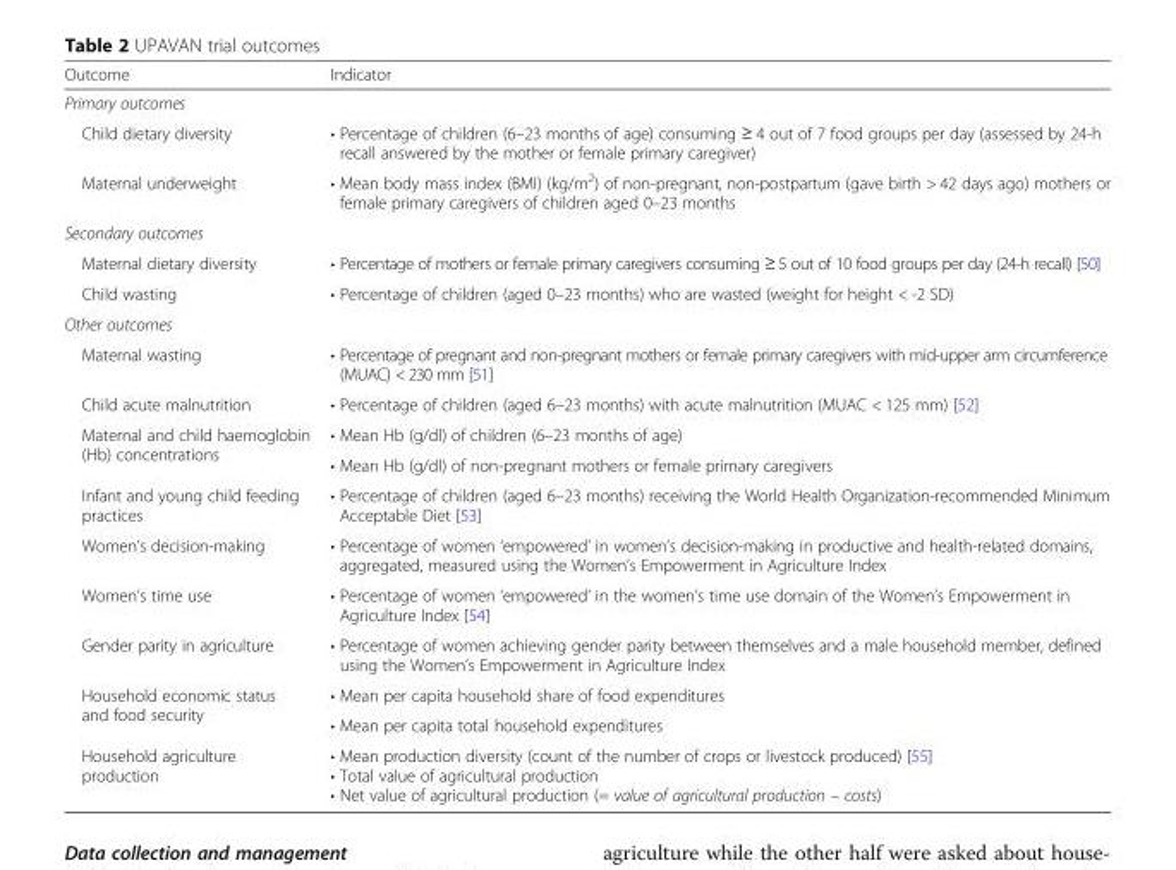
<table><thead><tr><td>Outcome</td><td>Indicator</td></tr></thead><tbody><tr><td colspan="2">Primary outcomes</td></tr><tr><td>Child dietary diversity</td><td>• Percentage of children (6–23 months of age) consuming ≥ 4 out of 7 food groups per day (assessed by 24-h recall answered by the mother or female primary caregiver)</td></tr><tr><td>Maternal underweight</td><td>• Mean body mass index (BMI) (kg/m<sup>2</sup>) of non-pregnant, non-postpartum (gave birth &gt; 42 days ago) mothers or female primary caregivers of children aged 0–23 months</td></tr><tr><td colspan="2">Secondary outcomes</td></tr><tr><td>Maternal dietary diversity</td><td>• Percentage of mothers or female primary caregivers consuming ≥ 5 out of 10 food groups per day (24-h recall) [50]</td></tr><tr><td>Child wasting</td><td>• Percentage of children (aged 0–23 months) who are wasted (weight for height &lt; -2 SD)</td></tr><tr><td colspan="2">Other outcomes</td></tr><tr><td>Maternal wasting</td><td>• Percentage of pregnant and non-pregnant mothers or female primary caregivers with mid-upper arm circumference (MUAC) &lt; 230 mm [51]</td></tr><tr><td>Child acute malnutrition</td><td>• Percentage of children (aged 6–23 months) with acute malnutrition (MUAC &lt; 125 mm) [52]</td></tr><tr><td rowspan="2">Maternal and child haemoglobin (Hb) concentrations</td><td>• Mean Hb (g/dl) of children (6–23 months of age)</td></tr><tr><td>• Mean Hb (g/dl) of non-pregnant mothers or female primary caregivers</td></tr><tr><td>Infant and young child feeding practices</td><td>• Percentage of children (aged 6–23 months) receiving the World Health Organization-recommended Minimum Acceptable Diet [53]</td></tr><tr><td>Women’s decision-making</td><td>• Percentage of women ‘empowered’ in women’s decision-making in productive and health-related domains, aggregated, measured using the Women’s Empowerment in Agriculture Index</td></tr><tr><td>Women’s time use</td><td>• Percentage of women ‘empowered’ in the women’s time use domain of the Women’s Empowerment in Agriculture Index [54]</td></tr><tr><td>Gender parity in agriculture</td><td>• Percentage of women achieving gender parity between themselves and a male household member, defined using the Women’s Empowerment in Agriculture Index</td></tr><tr><td rowspan="2">Household economic status and food security</td><td>• Mean per capita household share of food expenditures</td></tr><tr><td>• Mean per capita total household expenditures</td></tr><tr><td>Household agriculture production</td><td>• Mean production diversity (count of the number of crops or livestock produced) [55] • Total value of agricultural production • Net value of agricultural production (= value of agricultural production – costs)</td></tr></tbody></table>